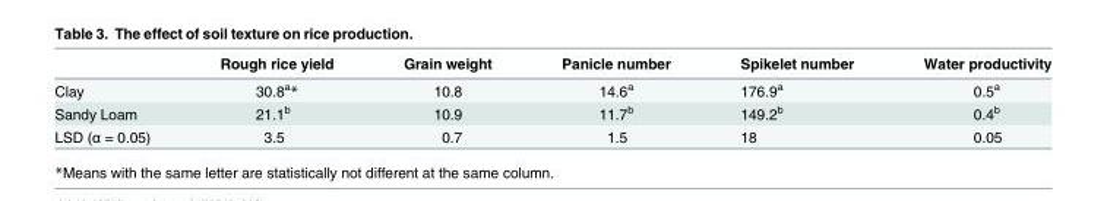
<table><thead><tr><td></td><td>Rough rice yield</td><td>Grain weight</td><td>Panicle number</td><td>Spikelet number</td><td>Water productivity</td></tr></thead><tbody><tr><td>Clay</td><td>30.8<sup>a</sup>*</td><td>10.8</td><td>14.6<sup>a</sup></td><td>176.9<sup>a</sup></td><td>0.5<sup>a</sup></td></tr><tr><td>Sandy Loam</td><td>21.1<sup>b</sup></td><td>10.9</td><td>11.7<sup>b</sup></td><td>149.2<sup>b</sup></td><td>0.4<sup>b</sup></td></tr><tr><td>LSD (α = 0.05)</td><td>3.5</td><td>0.7</td><td>1.5</td><td>18</td><td>0.05</td></tr></tbody></table>